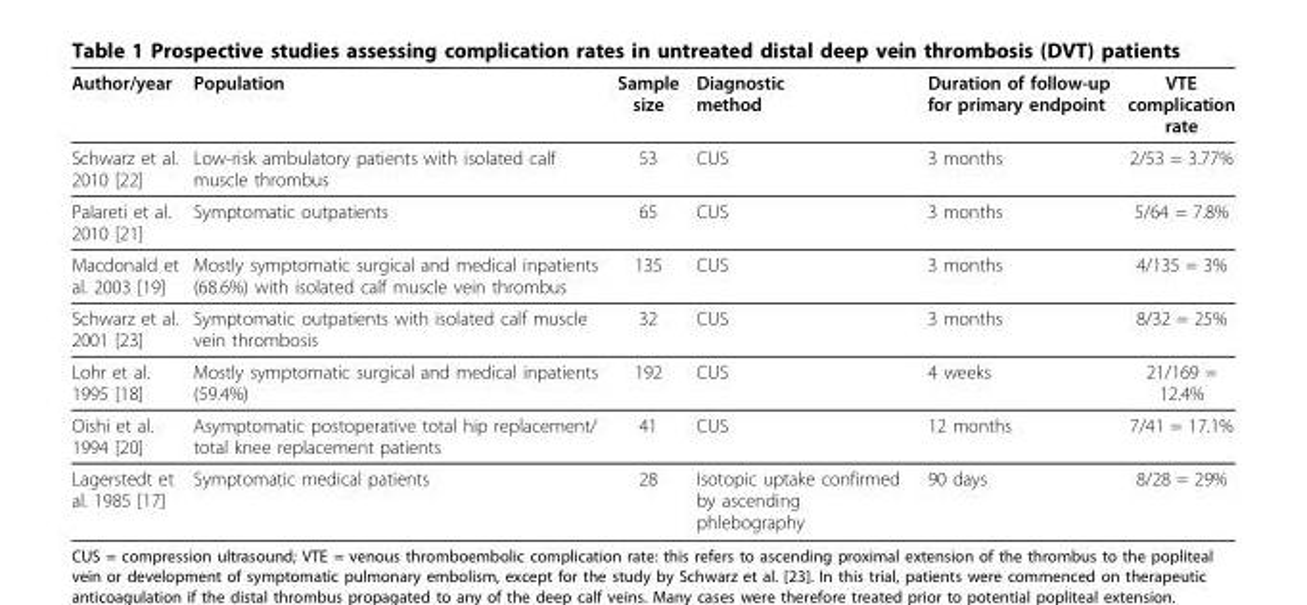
<table><thead><tr><td>Author/year</td><td>Population</td><td>Sample size</td><td>Diagnostic method</td><td>Duration of follow-up for primary endpoint</td><td>VTE complication rate</td></tr></thead><tbody><tr><td>Schwarz et al. 2010 [22]</td><td>Low-risk ambulatory patients with isolated calf muscle thrombus</td><td>53</td><td>CUS</td><td>3 months</td><td>2/53 = 3.77%</td></tr><tr><td>Palareti et al. 2010 [21]</td><td>Symptomatic outpatients</td><td>65</td><td>CUS</td><td>3 months</td><td>5/64 = 7.8%</td></tr><tr><td>Macdonald et al. 2003 [19]</td><td>Mostly symptomatic surgical and medical inpatients (68.6%) with isolated calf muscle vein thrombus</td><td>135</td><td>CUS</td><td>3 months</td><td>4/135 = 3%</td></tr><tr><td>Schwarz et al. 2001 [23]</td><td>Symptomatic outpatients with isolated calf muscle vein thrombosis</td><td>32</td><td>CUS</td><td>3 months</td><td>8/32 = 25%</td></tr><tr><td>Lohr et al. 1995 [18]</td><td>Mostly symptomatic surgical and medical inpatients (59.4%)</td><td>192</td><td>CUS</td><td>4 weeks</td><td>21/169 = 12.4%</td></tr><tr><td>Oishi et al. 1994 [20]</td><td>Asymptomatic postoperative total hip replacement/ total knee replacement patients</td><td>41</td><td>CUS</td><td>12 months</td><td>7/41 = 17.1%</td></tr><tr><td>Lagerstedt et al. 1985 [17]</td><td>Symptomatic medical patients</td><td>28</td><td>Isotopic uptake confirmed by ascending phlebography</td><td>90 days</td><td>8/28 = 29%</td></tr></tbody></table>